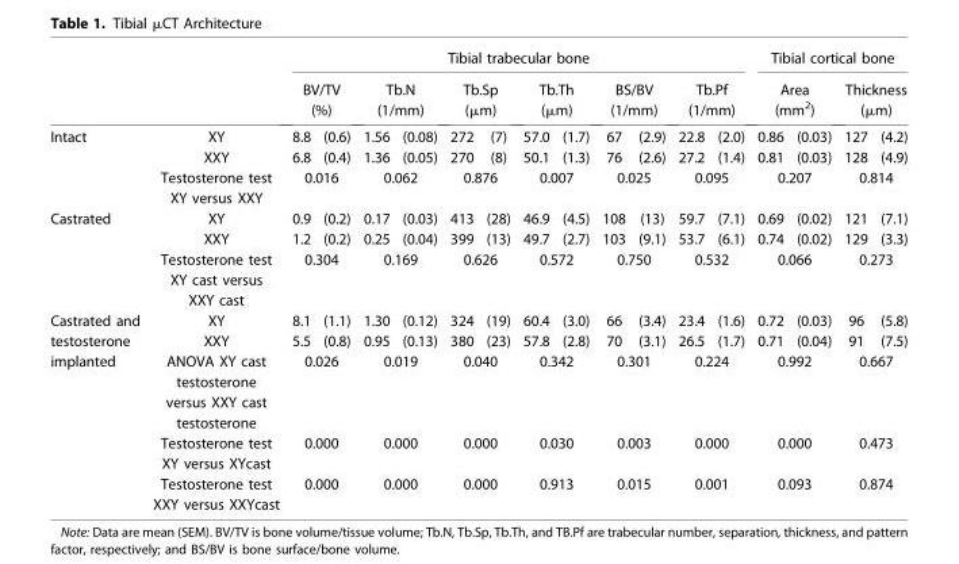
<table><thead><tr><td rowspan="3">Intact</td><td rowspan="3">XY</td><td colspan="12">Tibial trabecular bone</td><td colspan="4">Tibial cortical bone</td></tr><tr><td colspan="2">BV/TV (%)</td><td colspan="2">Tb.N (1/mm)</td><td colspan="2">Tb.Sp (µm)</td><td colspan="2">Tb.Th (µm)</td><td colspan="2">BS/BV (1/mm)</td><td colspan="2">Tb.Pf (1/mm)</td><td colspan="2">Area (mm<sup>2</sup>)</td><td colspan="2">Thickness (µm)</td></tr><tr><td>8.8</td><td>(0.6)</td><td>1.56</td><td>(0.08)</td><td>272</td><td>(7)</td><td>57.0</td><td>(1.7)</td><td>67</td><td>(2.9)</td><td>22.8</td><td>(2.0)</td><td>0.86</td><td>(0.03)</td><td>127</td><td>(4.2)</td></tr></thead><tbody><tr><td></td><td>XXY</td><td>6.8</td><td>(0.4)</td><td>1.36</td><td>(0.05)</td><td>270</td><td>(8)</td><td>50.1</td><td>(1.3)</td><td>76</td><td>(2.6)</td><td>27.2</td><td>(1.4)</td><td>0.81</td><td>(0.03)</td><td>128</td><td>(4.9)</td></tr><tr><td></td><td>Testosterone test XY versus XXY</td><td colspan="2">0.016</td><td colspan="2">0.062</td><td colspan="2">0.876</td><td colspan="2">0.007</td><td colspan="2">0.025</td><td colspan="2">0.095</td><td colspan="2">0.207</td><td colspan="2">0.814</td></tr><tr><td rowspan="3">Castrated</td><td>XY</td><td>0.9</td><td>(0.2)</td><td>0.17</td><td>(0.03)</td><td>413</td><td>(28)</td><td>46.9</td><td>(4.5)</td><td>108</td><td>(13)</td><td>59.7</td><td>(7.1)</td><td>0.69</td><td>(0.02)</td><td>121</td><td>(7.1)</td></tr><tr><td>XXY</td><td>1.2</td><td>(0.2)</td><td>0.25</td><td>(0.04)</td><td>399</td><td>(13)</td><td>49.7</td><td>(2.7)</td><td>103</td><td>(9.1)</td><td>53.7</td><td>(6.1)</td><td>0.74</td><td>(0.02)</td><td>129</td><td>(3.3)</td></tr><tr><td>Testosterone test XY cast versus XXY cast</td><td colspan="2">0.304</td><td colspan="2">0.169</td><td colspan="2">0.626</td><td colspan="2">0.572</td><td colspan="2">0.750</td><td colspan="2">0.532</td><td colspan="2">0.066</td><td colspan="2">0.273</td></tr><tr><td rowspan="5">Castrated and testosterone implanted</td><td>XY</td><td>8.1</td><td>(1.1)</td><td>1.30</td><td>(0.12)</td><td>324</td><td>(19)</td><td>60.4</td><td>(3.0)</td><td>66</td><td>(3.4)</td><td>23.4</td><td>(1.6)</td><td>0.72</td><td>(0.03)</td><td>96</td><td>(5.8)</td></tr><tr><td>XXY</td><td>5.5</td><td>(0.8)</td><td>0.95</td><td>(0.13)</td><td>380</td><td>(23)</td><td>57.8</td><td>(2.8)</td><td>70</td><td>(3.1)</td><td>26.5</td><td>(1.7)</td><td>0.71</td><td>(0.04)</td><td>91</td><td>(7.5)</td></tr><tr><td>ANOVA XY cast testosterone versus XXY cast testosterone</td><td colspan="2">0.026</td><td colspan="2">0.019</td><td colspan="2">0.040</td><td colspan="2">0.342</td><td colspan="2">0.301</td><td colspan="2">0.224</td><td colspan="2">0.992</td><td colspan="2">0.667</td></tr><tr><td>Testosterone test XY versus XYcast</td><td colspan="2">0.000</td><td colspan="2">0.000</td><td colspan="2">0.000</td><td colspan="2">0.030</td><td colspan="2">0.003</td><td colspan="2">0.000</td><td colspan="2">0.000</td><td colspan="2">0.473</td></tr><tr><td>Testosterone test XXY versus XXYcast</td><td colspan="2">0.000</td><td colspan="2">0.000</td><td colspan="2">0.000</td><td colspan="2">0.913</td><td colspan="2">0.015</td><td colspan="2">0.001</td><td colspan="2">0.093</td><td colspan="2">0.874</td></tr></tbody></table>